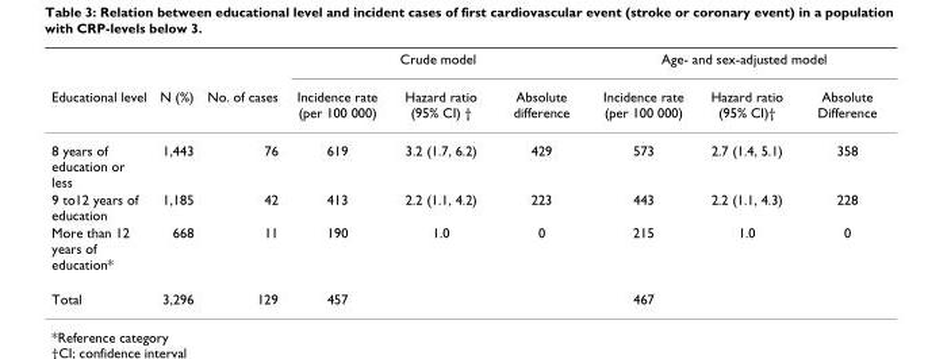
<table><thead><tr><td rowspan="2">Educational level</td><td rowspan="2">N (%)</td><td rowspan="2">No. of cases</td><td colspan="3">Crude model</td><td colspan="3">Age- and sex-adjusted model</td></tr><tr><td>Incidence rate (per 100 000)</td><td>Hazard ratio (95% CI) †</td><td>Absolute difference</td><td>Incidence rate (per 100 000)</td><td>Hazard ratio (95% CI)†</td><td>Absolute Difference</td></tr></thead><tbody><tr><td>8 years of education or less</td><td>1,443</td><td>76</td><td>619</td><td>3.2 (1.7, 6.2)</td><td>429</td><td>573</td><td>2.7 (1.4, 5.1)</td><td>358</td></tr><tr><td>9 to12 years of education</td><td>1,185</td><td>42</td><td>413</td><td>2.2 (1.1, 4.2)</td><td>223</td><td>443</td><td>2.2 (1.1, 4.3)</td><td>228</td></tr><tr><td>More than 12 years of education*</td><td>668</td><td>11</td><td>190</td><td>1.0</td><td>0</td><td>215</td><td>1.0</td><td>0</td></tr><tr><td>Total</td><td>3,296</td><td>129</td><td>457</td><td></td><td></td><td>467</td><td></td><td></td></tr></tbody></table>